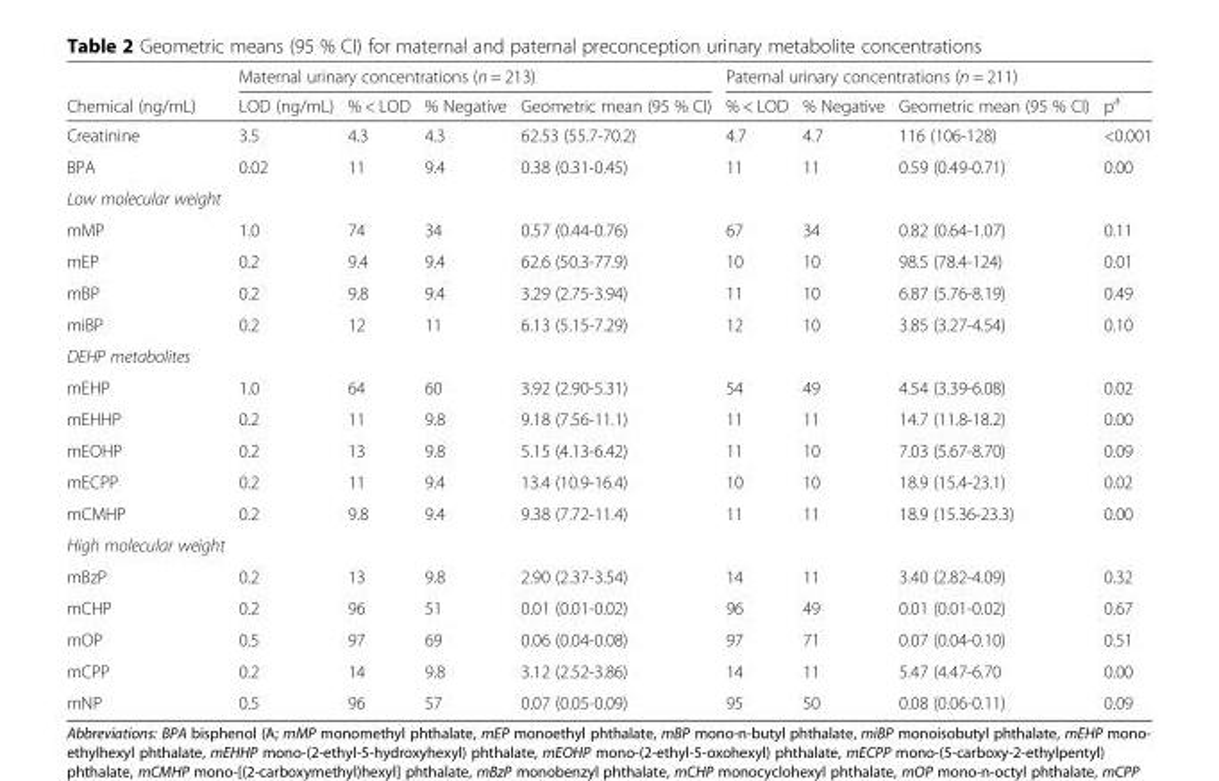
<table><thead><tr><td rowspan="2">Chemical (ng/mL)</td><td colspan="4">Maternal urinary concentrations (n = 213)</td><td colspan="4">Paternal urinary concentrations (n = 211)</td></tr><tr><td>LOD (ng/mL)</td><td>% &lt; LOD</td><td>% Negative</td><td>Geometric mean (95 % CI)</td><td>% &lt; LOD</td><td>% Negative</td><td>Geometric mean (95 % CI)</td><td>p<sup>a</sup></td></tr></thead><tbody><tr><td>Creatinine</td><td>3.5</td><td>4.3</td><td>4.3</td><td>62.53 (55.7-70.2)</td><td>4.7</td><td>4.7</td><td>116 (106-128)</td><td>&lt;0.001</td></tr><tr><td>BPA</td><td>0.02</td><td>11</td><td>9.4</td><td>0.38 (0.31-0.45)</td><td>11</td><td>11</td><td>0.59 (0.49-0.71)</td><td>0.00</td></tr><tr><td colspan="9">Low molecular weight</td></tr><tr><td>mMP</td><td>1.0</td><td>74</td><td>34</td><td>0.57 (0.44-0.76)</td><td>67</td><td>34</td><td>0.82 (0.64-1.07)</td><td>0.11</td></tr><tr><td>mEP</td><td>0.2</td><td>9.4</td><td>9.4</td><td>62.6 (50.3-77.9)</td><td>10</td><td>10</td><td>98.5 (78.4-124)</td><td>0.01</td></tr><tr><td>mBP</td><td>0.2</td><td>9.8</td><td>9.4</td><td>3.29 (2.75-3.94)</td><td>11</td><td>10</td><td>6.87 (5.76-8.19)</td><td>0.49</td></tr><tr><td>miBP</td><td>0.2</td><td>12</td><td>11</td><td>6.13 (5.15-7.29)</td><td>12</td><td>10</td><td>3.85 (3.27-4.54)</td><td>0.10</td></tr><tr><td colspan="9">DEHP metabolites</td></tr><tr><td>mEHP</td><td>1.0</td><td>64</td><td>60</td><td>3.92 (2.90-5.31)</td><td>54</td><td>49</td><td>4.54 (3.39-6.08)</td><td>0.02</td></tr><tr><td>mEHHP</td><td>0.2</td><td>11</td><td>9.8</td><td>9.18 (7.56-11.1)</td><td>11</td><td>11</td><td>14.7 (11.8-18.2)</td><td>0.00</td></tr><tr><td>mEOHP</td><td>0.2</td><td>13</td><td>9.8</td><td>5.15 (4.13-6.42)</td><td>11</td><td>10</td><td>7.03 (5.67-8.70)</td><td>0.09</td></tr><tr><td>mECPP</td><td>0.2</td><td>11</td><td>9.4</td><td>13.4 (10.9-16.4)</td><td>10</td><td>10</td><td>18.9 (15.4-23.1)</td><td>0.02</td></tr><tr><td>mCMHP</td><td>0.2</td><td>9.8</td><td>9.4</td><td>9.38 (7.72-11.4)</td><td>11</td><td>11</td><td>18.9 (15.36-23.3)</td><td>0.00</td></tr><tr><td colspan="9">High molecular weight</td></tr><tr><td>mBzP</td><td>0.2</td><td>13</td><td>9.8</td><td>2.90 (2.37-3.54)</td><td>14</td><td>11</td><td>3.40 (2.82-4.09)</td><td>0.32</td></tr><tr><td>mCHP</td><td>0.2</td><td>96</td><td>51</td><td>0.01 (0.01-0.02)</td><td>96</td><td>49</td><td>0.01 (0.01-0.02)</td><td>0.67</td></tr><tr><td>mOP</td><td>0.5</td><td>97</td><td>69</td><td>0.06 (0.04-0.08)</td><td>97</td><td>71</td><td>0.07 (0.04-0.10)</td><td>0.51</td></tr><tr><td>mCPP</td><td>0.2</td><td>14</td><td>9.8</td><td>3.12 (2.52-3.86)</td><td>14</td><td>11</td><td>5.47 (4.47-6.70</td><td>0.00</td></tr><tr><td>mNP</td><td>0.5</td><td>96</td><td>57</td><td>0.07 (0.05-0.09)</td><td>95</td><td>50</td><td>0.08 (0.06-0.11)</td><td>0.09</td></tr></tbody></table>